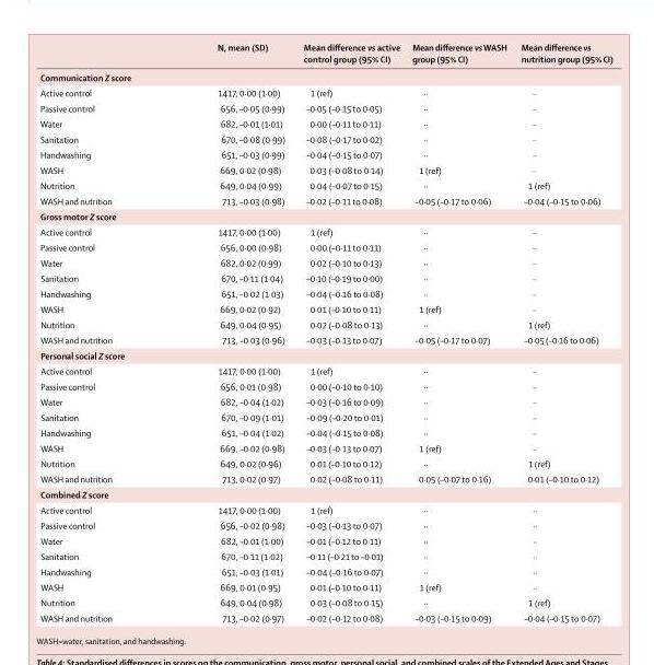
<table><thead><tr><td></td><td>N, mean (SD)</td><td>Mean difference vs active control group (95% CI)</td><td>Mean difference vs WASH group (95% CI)</td><td>Mean difference vs nutrition group (95% CI)</td></tr></thead><tbody><tr><td colspan="5">Communication Z score</td></tr><tr><td>Active control</td><td>1417, 0·00 (1·00)</td><td>1 (ref)</td><td>··</td><td>··</td></tr><tr><td>Passive control</td><td>656, –0·05 (0·99)</td><td>–0·05 (–0·15 to 0·05)</td><td>··</td><td>··</td></tr><tr><td>Water</td><td>682, –0·01 (1·01)</td><td>0·00 (–0·11 to 0·11)</td><td>··</td><td>··</td></tr><tr><td>Sanitation</td><td>670, –0·08 (0·99)</td><td>–0·08 (–0·17 to 0·02)</td><td>··</td><td>··</td></tr><tr><td>Handwashing</td><td>651, –0·03 (0·99)</td><td>–0·04 (–0·15 to 0·07)</td><td>··</td><td>··</td></tr><tr><td>WASH</td><td>669, 0·02 (0·98)</td><td>0·03 (–0·08 to 0·14)</td><td>1 (ref)</td><td>··</td></tr><tr><td>Nutrition</td><td>649, 0·04 (0·99)</td><td>0·04 (–0·07 to 0·15)</td><td>··</td><td>1 (ref)</td></tr><tr><td>WASH and nutrition</td><td>713, –0·03 (0·98)</td><td>–0·02 (–0·11 to 0·08)</td><td>–0·05 (–0·17 to 0·06)</td><td>–0·04 (–0·15 to 0·06)</td></tr><tr><td colspan="5">Gross motor Z score</td></tr><tr><td>Active control</td><td>1417, 0·00 (1·00)</td><td>1 (ref)</td><td>··</td><td>··</td></tr><tr><td>Passive control</td><td>656, 0·00 (0·98)</td><td>0·00 (–0·11 to 0·11)</td><td>··</td><td>··</td></tr><tr><td>Water</td><td>682, 0·02 (0·99)</td><td>0·02 (–0·10 to 0·13)</td><td>··</td><td>··</td></tr><tr><td>Sanitation</td><td>670, –0·11 (1·04)</td><td>–0·10 (–0·19 to 0·00)</td><td>··</td><td>··</td></tr><tr><td>Handwashing</td><td>651, –0·02 (1·03)</td><td>–0·04 (–0·16 to 0·08)</td><td>··</td><td>··</td></tr><tr><td>WASH</td><td>669, 0·02 (0·92)</td><td>0·01 (–0·10 to 0·11)</td><td>1 (ref)</td><td>··</td></tr><tr><td>Nutrition</td><td>649, 0·04 (0·95)</td><td>0·02 (–0·08 to 0·13)</td><td>··</td><td>1 (ref)</td></tr><tr><td>WASH and nutrition</td><td>713, –0·03 (0·96)</td><td>–0·03 (–0·13 to 0·07)</td><td>–0·05 (–0·17 to 0·07)</td><td>–0·05 (–0·16 to 0·06)</td></tr><tr><td colspan="5">Personal social Z score</td></tr><tr><td>Active control</td><td>1417, 0·00 (1·00)</td><td>1 (ref)</td><td>··</td><td>··</td></tr><tr><td>Passive control</td><td>656, 0·01 (0·98)</td><td>0·00 (–0·10 to 0·10)</td><td>··</td><td>··</td></tr><tr><td>Water</td><td>682, –0·04 (1·02)</td><td>–0·03 (–0·16 to 0·09)</td><td>··</td><td>··</td></tr><tr><td>Sanitation</td><td>670, –0·09 (1·01)</td><td>–0·09 (–0·20 to 0·01)</td><td>··</td><td>··</td></tr><tr><td>Handwashing</td><td>651, –0·04 (1·02)</td><td>–0·04 (–0·15 to 0·08)</td><td>··</td><td>··</td></tr><tr><td>WASH</td><td>669, –0·02 (0·98)</td><td>–0·03 (–0·13 to 0·07)</td><td>1 (ref)</td><td>··</td></tr><tr><td>Nutrition</td><td>649, 0·02 (0·96)</td><td>0·01 (–0·10 to 0·12)</td><td>··</td><td>1 (ref)</td></tr><tr><td>WASH and nutrition</td><td>713, 0·02 (0·97)</td><td>0·02 (–0·08 to 0·11)</td><td>0·05 (–0·07 to 0·16)</td><td>0·01 (–0·10 to 0·12)</td></tr><tr><td colspan="5">Combined Z score</td></tr><tr><td>Active control</td><td>1417, 0·00 (1·00)</td><td>1 (ref)</td><td>··</td><td>··</td></tr><tr><td>Passive control</td><td>656, –0·02 (0·98)</td><td>–0·03 (–0·13 to 0·07)</td><td>··</td><td>··</td></tr><tr><td>Water</td><td>682, –0·01 (1·00)</td><td>–0·01 (–0·12 to 0·11)</td><td>··</td><td>··</td></tr><tr><td>Sanitation</td><td>670, –0·11 (1·02)</td><td>–0·11 (–0·21 to –0·01)</td><td>··</td><td>··</td></tr><tr><td>Handwashing</td><td>651, –0·03 (1·01)</td><td>–0·04 (–0·16 to 0·07)</td><td>··</td><td>··</td></tr><tr><td>WASH</td><td>669, 0·01 (0·95)</td><td>0·01 (–0·10 to 0·11)</td><td>1 (ref)</td><td>··</td></tr><tr><td>Nutrition</td><td>649, 0·04 (0·98)</td><td>0·03 (–0·08 to 0·15)</td><td>··</td><td>1 (ref)</td></tr><tr><td>WASH and nutrition</td><td>713, –0·02 (0·97)</td><td>–0·02 (–0·12 to 0·08)</td><td>–0·03 (–0·15 to 0·09)</td><td>–0·04 (–0·15 to 0·07)</td></tr></tbody></table>